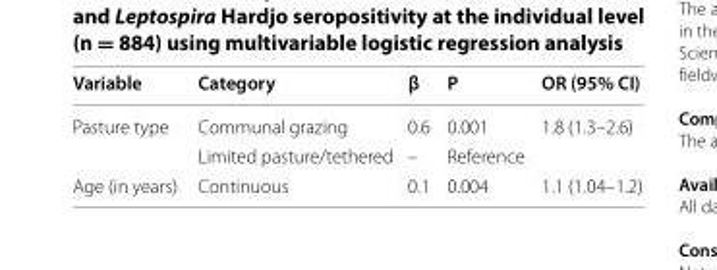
<table><thead><tr><td>Variable</td><td>Category</td><td>β</td><td>P</td><td>OR (95% CI)</td></tr></thead><tbody><tr><td rowspan="2">Pasture type</td><td>Communal grazing</td><td>0.6</td><td>0.001</td><td>1.8 (1.3–2.6)</td></tr><tr><td>Limited pasture/tethered</td><td>–</td><td>Reference</td><td></td></tr><tr><td>Age (in years)</td><td>Continuous</td><td>0.1</td><td>0.004</td><td>1.1 (1.04–1.2)</td></tr></tbody></table>